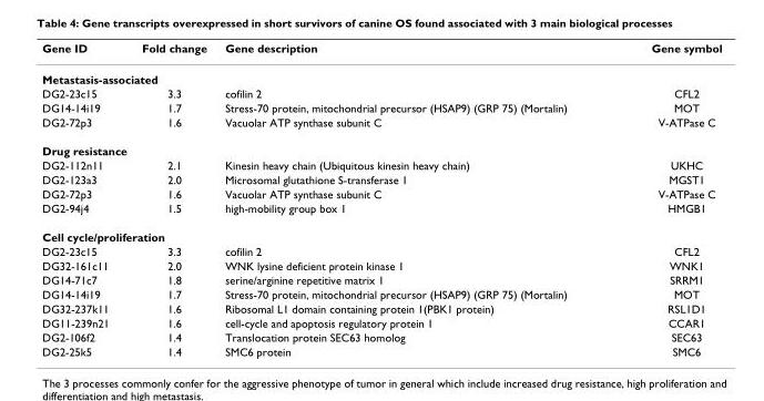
<table><thead><tr><td>Gene ID</td><td>Fold change</td><td>Gene description</td><td>Gene symbol</td></tr></thead><tbody><tr><td colspan="4">Metastasis-associated</td></tr><tr><td>DG2-23c15</td><td>3.3</td><td>cofilin 2</td><td>CFL2</td></tr><tr><td>DG14-14i19</td><td>1.7</td><td>Stress-70 protein, mitochondrial precursor (HSAP9) (GRP 75) (Mortalin)</td><td>MOT</td></tr><tr><td>DG2-72p3</td><td>1.6</td><td>Vacuolar ATP synthase subunit C</td><td>V-ATPase C</td></tr><tr><td colspan="4">Drug resistance</td></tr><tr><td>DG2-112n11</td><td>2.1</td><td>Kinesin heavy chain (Ubiquitous kinesin heavy chain)</td><td>UKHC</td></tr><tr><td>DG2-123a3</td><td>2.0</td><td>Microsomal glutathione S-transferase 1</td><td>MGST1</td></tr><tr><td>DG2-72p3</td><td>1.6</td><td>Vacuolar ATP synthase subunit C</td><td>V-ATPase C</td></tr><tr><td>DG2-94j4</td><td>1.5</td><td>high-mobility group box 1</td><td>HMGB1</td></tr><tr><td colspan="4">Cell cycle/proliferation</td></tr><tr><td>DG2-23c15</td><td>3.3</td><td>cofilin 2</td><td>CFL2</td></tr><tr><td>DG32-161c11</td><td>2.0</td><td>WNK lysine deficient protein kinase 1</td><td>WNK1</td></tr><tr><td>DG14-71c7</td><td>1.8</td><td>serine/arginine repetitive matrix 1</td><td>SRRM1</td></tr><tr><td>DG14-14i19</td><td>1.7</td><td>Stress-70 protein, mitochondrial precursor (HSAP9) (GRP 75) (Mortalin)</td><td>MOT</td></tr><tr><td>DG32-237k11</td><td>1.6</td><td>Ribosomal L1 domain containing protein 1(PBK1 protein)</td><td>RSL1D1</td></tr><tr><td>DG11-239n21</td><td>1.6</td><td>cell-cycle and apoptosis regulatory protein 1</td><td>CCAR1</td></tr><tr><td>DG2-106f2</td><td>1.4</td><td>Translocation protein SEC63 homolog</td><td>SEC63</td></tr><tr><td>DG2-25k5</td><td>1.4</td><td>SMC6 protein</td><td>SMC6</td></tr></tbody></table>